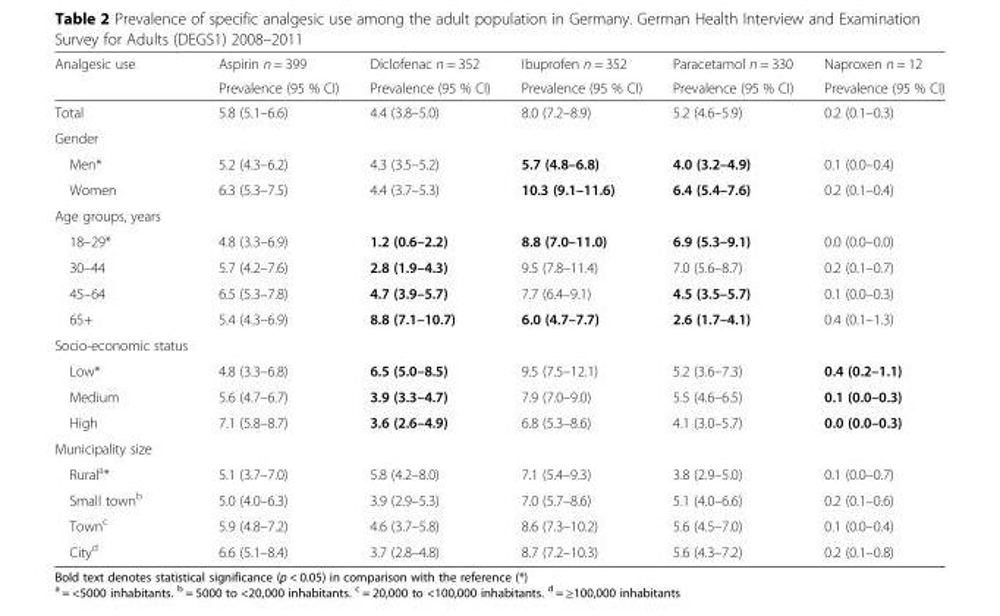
<table><thead><tr><td rowspan="2">Analgesic use</td><td rowspan="2">Aspirin n = 399 Prevalence (95 % CI)</td><td rowspan="2">Diclofenac n = 352 Prevalence (95 % CI)</td><td rowspan="2">Ibuprofen n = 352 Prevalence (95 % CI)</td><td rowspan="2">Paracetamol n = 330 Prevalence (95 % CI)</td><td rowspan="2">Naproxen n = 12 Prevalence (95 % CI)</td></tr><tr></tr></thead><tbody><tr><td>Total</td><td>5.8 (5.1–6.6)</td><td>4.4 (3.8–5.0)</td><td>8.0 (7.2–8.9)</td><td>5.2 (4.6–5.9)</td><td>0.2 (0.1–0.3)</td></tr><tr><td colspan="6">Gender</td></tr><tr><td>Men*</td><td>5.2 (4.3–6.2)</td><td>4.3 (3.5–5.2)</td><td>5.7 (4.8–6.8)</td><td>4.0 (3.2–4.9)</td><td>0.1 (0.0–0.4)</td></tr><tr><td>Women</td><td>6.3 (5.3–7.5)</td><td>4.4 (3.7–5.3)</td><td>10.3 (9.1–11.6)</td><td>6.4 (5.4–7.6)</td><td>0.2 (0.1–0.4)</td></tr><tr><td colspan="6">Age groups, years</td></tr><tr><td>18–29*</td><td>4.8 (3.3–6.9)</td><td>1.2 (0.6–2.2)</td><td>8.8 (7.0–11.0)</td><td>6.9 (5.3–9.1)</td><td>0.0 (0.0–0.0)</td></tr><tr><td>30–44</td><td>5.7 (4.2–7.6)</td><td>2.8 (1.9–4.3)</td><td>9.5 (7.8–11.4)</td><td>7.0 (5.6–8.7)</td><td>0.2 (0.1–0.7)</td></tr><tr><td>45–64</td><td>6.5 (5.3–7.8)</td><td>4.7 (3.9–5.7)</td><td>7.7 (6.4–9.1)</td><td>4.5 (3.5–5.7)</td><td>0.1 (0.0–0.3)</td></tr><tr><td>65+</td><td>5.4 (4.3–6.9)</td><td>8.8 (7.1–10.7)</td><td>6.0 (4.7–7.7)</td><td>2.6 (1.7–4.1)</td><td>0.4 (0.1–1.3)</td></tr><tr><td colspan="6">Socio-economic status</td></tr><tr><td>Low*</td><td>4.8 (3.3–6.8)</td><td>6.5 (5.0–8.5)</td><td>9.5 (7.5–12.1)</td><td>5.2 (3.6–7.3)</td><td>0.4 (0.2–1.1)</td></tr><tr><td>Medium</td><td>5.6 (4.7–6.7)</td><td>3.9 (3.3–4.7)</td><td>7.9 (7.0–9.0)</td><td>5.5 (4.6–6.5)</td><td>0.1 (0.0–0.3)</td></tr><tr><td>High</td><td>7.1 (5.8–8.7)</td><td>3.6 (2.6–4.9)</td><td>6.8 (5.3–8.6)</td><td>4.1 (3.0–5.7)</td><td>0.0 (0.0–0.3)</td></tr><tr><td colspan="6">Municipality size</td></tr><tr><td>Rural<sup>a</sup>*</td><td>5.1 (3.7–7.0)</td><td>5.8 (4.2–8.0)</td><td>7.1 (5.4–9.3)</td><td>3.8 (2.9–5.0)</td><td>0.1 (0.0–0.7)</td></tr><tr><td>Small town<sup>b</sup></td><td>5.0 (4.0–6.3)</td><td>3.9 (2.9–5.3)</td><td>7.0 (5.7–8.6)</td><td>5.1 (4.0–6.6)</td><td>0.2 (0.1–0.6)</td></tr><tr><td>Town<sup>c</sup></td><td>5.9 (4.8–7.2)</td><td>4.6 (3.7–5.8)</td><td>8.6 (7.3–10.2)</td><td>5.6 (4.5–7.0)</td><td>0.1 (0.0–0.4)</td></tr><tr><td>City<sup>d</sup></td><td>6.6 (5.1–8.4)</td><td>3.7 (2.8–4.8)</td><td>8.7 (7.2–10.3)</td><td>5.6 (4.3–7.2)</td><td>0.2 (0.1–0.8)</td></tr></tbody></table>